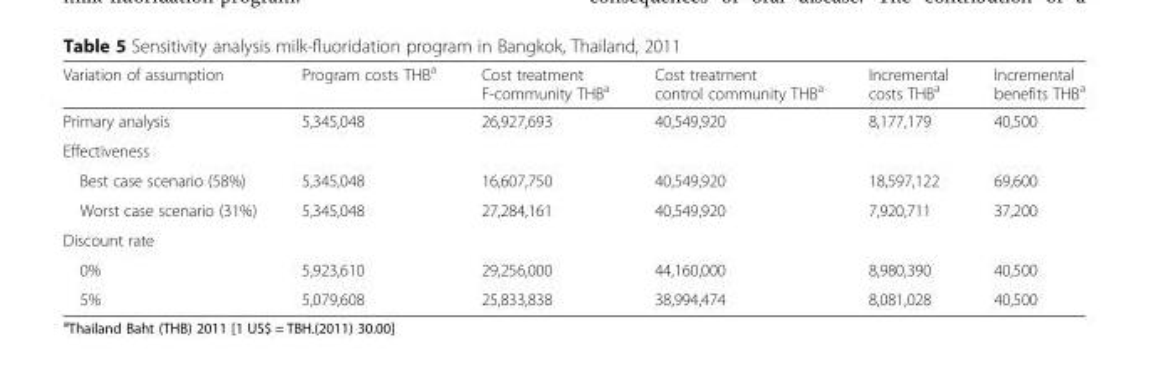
<table><thead><tr><td>Variation of assumption</td><td>Program costs THB<sup>a</sup></td><td>Cost treatment F-community THB<sup>a</sup></td><td>Cost treatment control community THB<sup>a</sup></td><td>Incremental costs THB<sup>a</sup></td><td>Incremental benefits THB<sup>a</sup></td></tr></thead><tbody><tr><td>Primary analysis</td><td>5,345,048</td><td>26,927,693</td><td>40,549,920</td><td>8,177,179</td><td>40,500</td></tr><tr><td colspan="6">Effectiveness</td></tr><tr><td>Best case scenario (58%)</td><td>5,345,048</td><td>16,607,750</td><td>40,549,920</td><td>18,597,122</td><td>69,600</td></tr><tr><td>Worst case scenario (31%)</td><td>5,345,048</td><td>27,284,161</td><td>40,549,920</td><td>7,920,711</td><td>37,200</td></tr><tr><td colspan="6">Discount rate</td></tr><tr><td>0%</td><td>5,923,610</td><td>29,256,000</td><td>44,160,000</td><td>8,980,390</td><td>40,500</td></tr><tr><td>5%</td><td>5,079,608</td><td>25,833,838</td><td>38,994,474</td><td>8,081,028</td><td>40,500</td></tr></tbody></table>